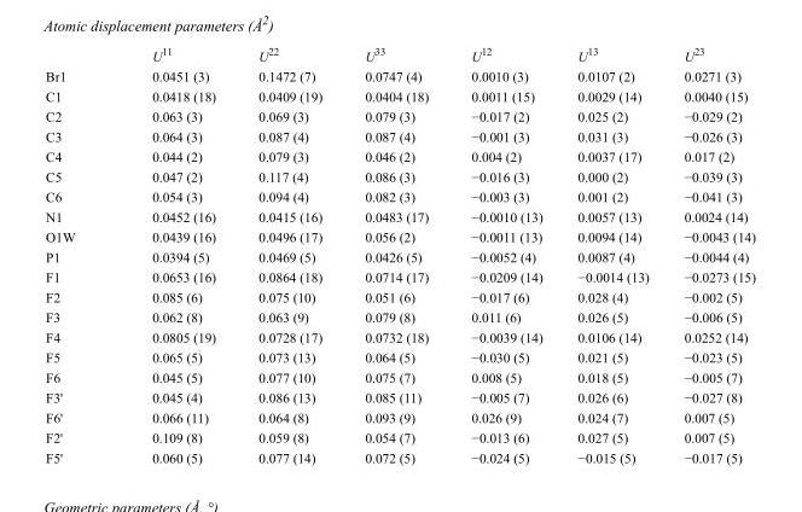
<table><thead><tr><td></td><td>U<sup>11</sup></td><td>U<sup>22</sup></td><td>U<sup>33</sup></td><td>U<sup>12</sup></td><td>U<sup>13</sup></td><td>U<sup>23</sup></td></tr></thead><tbody><tr><td>Br1</td><td>0.0451 (3)</td><td>0.1472 (7)</td><td>0.0747 (4)</td><td>0.0010 (3)</td><td>0.0107 (2)</td><td>0.0271 (3)</td></tr><tr><td>C1</td><td>0.0418 (18)</td><td>0.0409 (19)</td><td>0.0404 (18)</td><td>0.0011 (15)</td><td>0.0029 (14)</td><td>0.0040 (15)</td></tr><tr><td>C2</td><td>0.063 (3)</td><td>0.069 (3)</td><td>0.079 (3)</td><td>−0.017 (2)</td><td>0.025 (2)</td><td>−0.029 (2)</td></tr><tr><td>C3</td><td>0.064 (3)</td><td>0.087 (4)</td><td>0.087 (4)</td><td>−0.001 (3)</td><td>0.031 (3)</td><td>−0.026 (3)</td></tr><tr><td>C4</td><td>0.044 (2)</td><td>0.079 (3)</td><td>0.046 (2)</td><td>0.004 (2)</td><td>0.0037 (17)</td><td>0.017 (2)</td></tr><tr><td>C5</td><td>0.047 (2)</td><td>0.117 (4)</td><td>0.086 (3)</td><td>−0.016 (3)</td><td>0.000 (2)</td><td>−0.039 (3)</td></tr><tr><td>C6</td><td>0.054 (3)</td><td>0.094 (4)</td><td>0.082 (3)</td><td>−0.003 (3)</td><td>0.001 (2)</td><td>−0.041 (3)</td></tr><tr><td>N1</td><td>0.0452 (16)</td><td>0.0415 (16)</td><td>0.0483 (17)</td><td>−0.0010 (13)</td><td>0.0057 (13)</td><td>0.0024 (14)</td></tr><tr><td>O1W</td><td>0.0439 (16)</td><td>0.0496 (17)</td><td>0.056 (2)</td><td>−0.0011 (13)</td><td>0.0094 (14)</td><td>−0.0043 (14)</td></tr><tr><td>P1</td><td>0.0394 (5)</td><td>0.0469 (5)</td><td>0.0426 (5)</td><td>−0.0052 (4)</td><td>0.0087 (4)</td><td>−0.0044 (4)</td></tr><tr><td>F1</td><td>0.0653 (16)</td><td>0.0864 (18)</td><td>0.0714 (17)</td><td>−0.0209 (14)</td><td>−0.0014 (13)</td><td>−0.0273 (15)</td></tr><tr><td>F2</td><td>0.085 (6)</td><td>0.075 (10)</td><td>0.051 (6)</td><td>−0.017 (6)</td><td>0.028 (4)</td><td>−0.002 (5)</td></tr><tr><td>F3</td><td>0.062 (8)</td><td>0.063 (9)</td><td>0.079 (8)</td><td>0.011 (6)</td><td>0.026 (5)</td><td>−0.006 (5)</td></tr><tr><td>F4</td><td>0.0805 (19)</td><td>0.0728 (17)</td><td>0.0732 (18)</td><td>−0.0039 (14)</td><td>0.0106 (14)</td><td>0.0252 (14)</td></tr><tr><td>F5</td><td>0.065 (5)</td><td>0.073 (13)</td><td>0.064 (5)</td><td>−0.030 (5)</td><td>0.021 (5)</td><td>−0.023 (5)</td></tr><tr><td>F6</td><td>0.045 (5)</td><td>0.077 (10)</td><td>0.075 (7)</td><td>0.008 (5)</td><td>0.018 (5)</td><td>−0.005 (7)</td></tr><tr><td>F3&#x27;</td><td>0.045 (4)</td><td>0.086 (13)</td><td>0.085 (11)</td><td>−0.005 (7)</td><td>0.026 (6)</td><td>−0.027 (8)</td></tr><tr><td>F6&#x27;</td><td>0.066 (11)</td><td>0.064 (8)</td><td>0.093 (9)</td><td>0.026 (9)</td><td>0.024 (7)</td><td>0.007 (5)</td></tr><tr><td>F2&#x27;</td><td>0.109 (8)</td><td>0.059 (8)</td><td>0.054 (7)</td><td>−0.013 (6)</td><td>0.027 (5)</td><td>0.007 (5)</td></tr><tr><td>F5&#x27;</td><td>0.060 (5)</td><td>0.077 (14)</td><td>0.072 (5)</td><td>−0.024 (5)</td><td>−0.015 (5)</td><td>−0.017 (5)</td></tr></tbody></table>